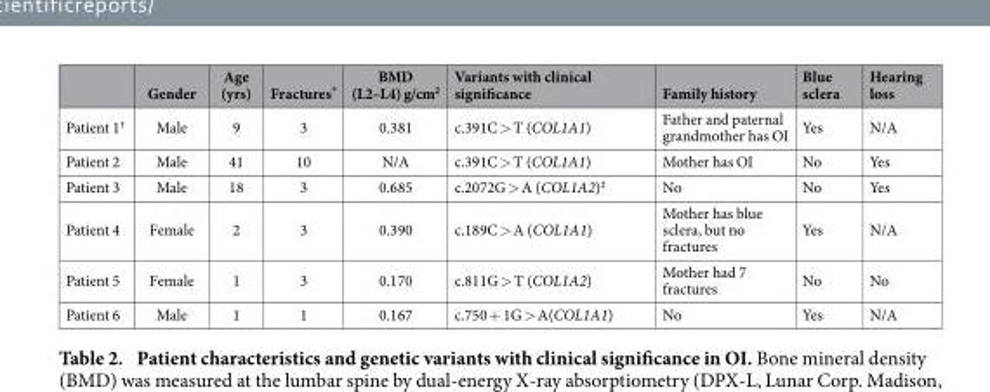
<table><thead><tr><td></td><td>Gender</td><td>Age (yrs)</td><td>Fractures*</td><td>BMD (L2–L4) g/cm<sup>2</sup></td><td>Variants with clinical significance</td><td>Family history</td><td>Blue sclera</td><td>Hearing loss</td></tr></thead><tbody><tr><td>Patient 1†</td><td>Male</td><td>9</td><td>3</td><td>0.381</td><td>c.391C &gt; T (COL1A1)</td><td>Father and paternal grandmother has OI</td><td>Yes</td><td>N/A</td></tr><tr><td>Patient 2</td><td>Male</td><td>41</td><td>10</td><td>N/A</td><td>c.391C &gt; T (COL1A1)</td><td>Mother has OI</td><td>No</td><td>Yes</td></tr><tr><td>Patient 3</td><td>Male</td><td>18</td><td>3</td><td>0.685</td><td>c.2072G &gt; A (COL1A2)‡</td><td>No</td><td>No</td><td>Yes</td></tr><tr><td>Patient 4</td><td>Female</td><td>2</td><td>3</td><td>0.390</td><td>c.189C &gt; A (COL1A1)</td><td>Mother has blue sclera, but no fractures</td><td>Yes</td><td>N/A</td></tr><tr><td>Patient 5</td><td>Female</td><td>1</td><td>3</td><td>0.170</td><td>c.811G &gt; T (COL1A2)</td><td>Mother had 7 fractures</td><td>No</td><td>No</td></tr><tr><td>Patient 6</td><td>Male</td><td>1</td><td>1</td><td>0.167</td><td>c.750 + 1G &gt; A(COL1A1)</td><td>No</td><td>Yes</td><td>N/A</td></tr></tbody></table>